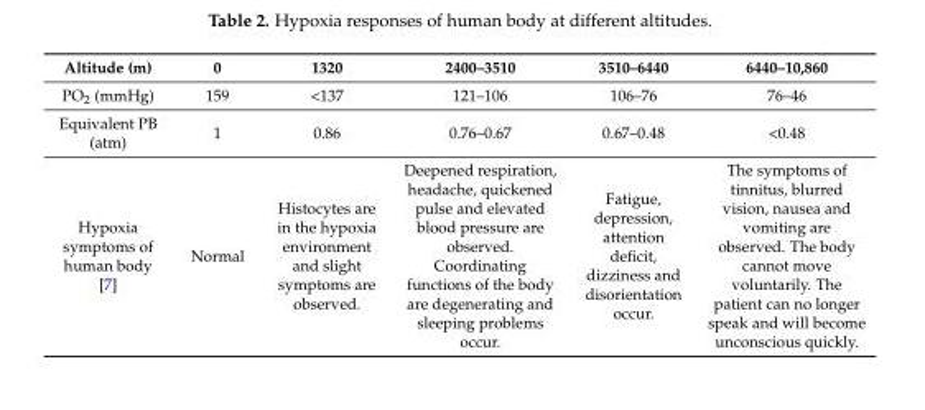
<table><thead><tr><td>Altitude (m)</td><td>0</td><td>1320</td><td>2400–3510</td><td>3510–6440</td><td>6440–10,860</td></tr></thead><tbody><tr><td>PO<sub>2</sub> (mmHg)</td><td>159</td><td>&lt;137</td><td>121–106</td><td>106–76</td><td>76–46</td></tr><tr><td>Equivalent PB (atm)</td><td>1</td><td>0.86</td><td>0.76–0.67</td><td>0.67–0.48</td><td>&lt;0.48</td></tr><tr><td>Hypoxia symptoms of human body [7]</td><td>Normal</td><td>Histocytes are in the hypoxia environment and slight symptoms are observed.</td><td>Deepened respiration, headache, quickened pulse and elevated blood pressure are observed. Coordinating functions of the body are degenerating and sleeping problems occur.</td><td>Fatigue, depression, attention deficit, dizziness and disorientation occur.</td><td>The symptoms of tinnitus, blurred vision, nausea and vomiting are observed. The body cannot move voluntarily. The patient can no longer speak and will become unconscious quickly.</td></tr></tbody></table>